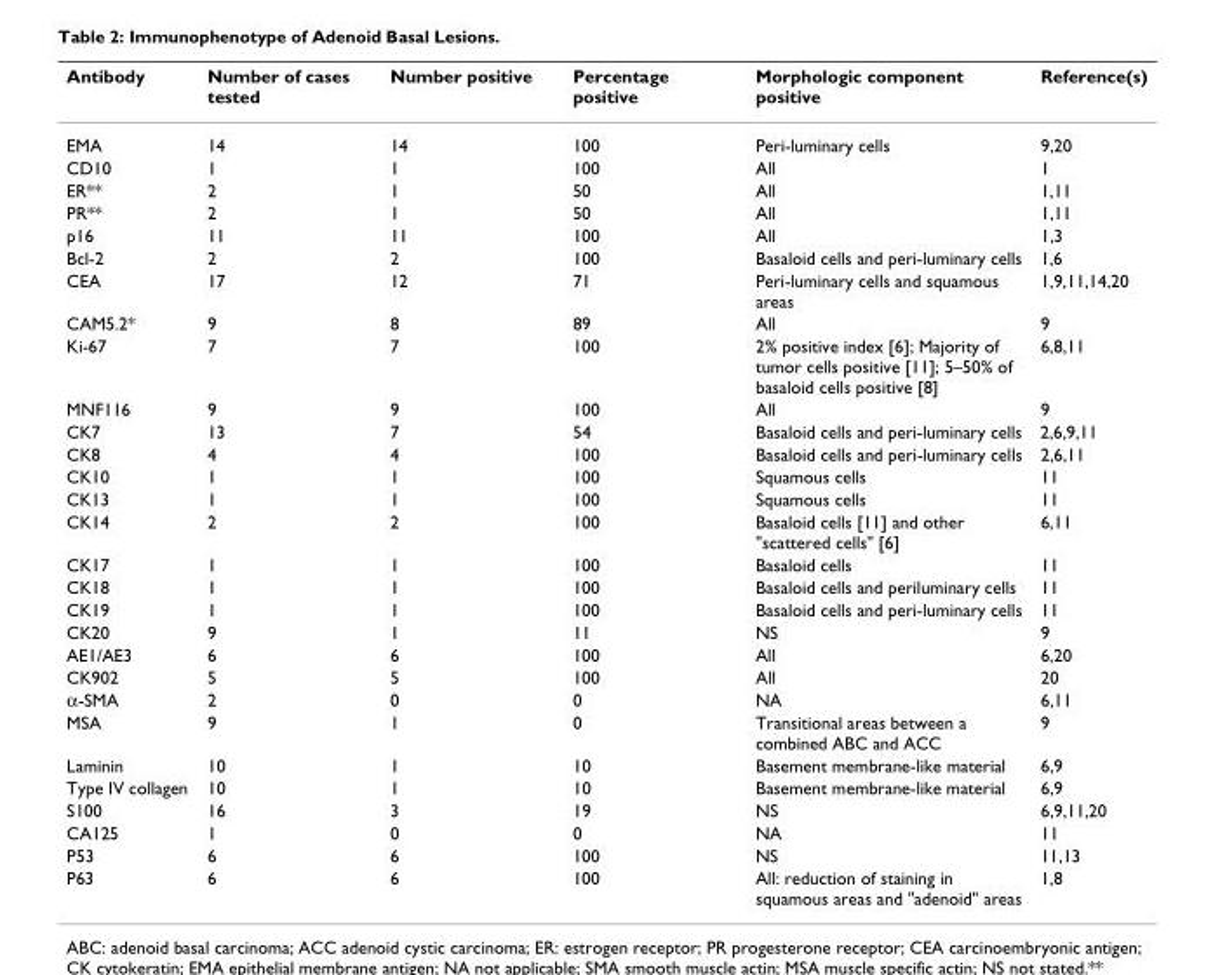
<table><thead><tr><td>Antibody</td><td>Number of cases tested</td><td>Number positive</td><td>Percentage positive</td><td>Morphologic component positive</td><td>Reference(s)</td></tr></thead><tbody><tr><td>EMA</td><td>14</td><td>14</td><td>100</td><td>Peri-luminary cells</td><td>9,20</td></tr><tr><td>CD10</td><td>1</td><td>1</td><td>100</td><td>All</td><td>1</td></tr><tr><td>ER**</td><td>2</td><td>1</td><td>50</td><td>All</td><td>1,11</td></tr><tr><td>PR**</td><td>2</td><td>1</td><td>50</td><td>All</td><td>1,11</td></tr><tr><td>p16</td><td>11</td><td>11</td><td>100</td><td>All</td><td>1,3</td></tr><tr><td>Bcl-2</td><td>2</td><td>2</td><td>100</td><td>Basaloid cells and peri-luminary cells</td><td>1,6</td></tr><tr><td>CEA</td><td>17</td><td>12</td><td>71</td><td>Peri-luminary cells and squamous areas</td><td>1,9,11,14,20</td></tr><tr><td>CAM5.2*</td><td>9</td><td>8</td><td>89</td><td>All</td><td>9</td></tr><tr><td>Ki-67</td><td>7</td><td>7</td><td>100</td><td>2% positive index [6]; Majority of tumor cells positive [11]; 5–50% of basaloid cells positive [8]</td><td>6,8,11</td></tr><tr><td>MNF116</td><td>9</td><td>9</td><td>100</td><td>All</td><td>9</td></tr><tr><td>CK7</td><td>13</td><td>7</td><td>54</td><td>Basaloid cells and peri-luminary cells</td><td>2,6,9,11</td></tr><tr><td>CK8</td><td>4</td><td>4</td><td>100</td><td>Basaloid cells and peri-luminary cells</td><td>2,6,11</td></tr><tr><td>CK10</td><td>1</td><td>1</td><td>100</td><td>Squamous cells</td><td>11</td></tr><tr><td>CK13</td><td>1</td><td>1</td><td>100</td><td>Squamous cells</td><td>11</td></tr><tr><td>CK14</td><td>2</td><td>2</td><td>100</td><td>Basaloid cells [11] and other &quot;scattered cells&quot; [6]</td><td>6,11</td></tr><tr><td>CK17</td><td>1</td><td>1</td><td>100</td><td>Basaloid cells</td><td>11</td></tr><tr><td>CK18</td><td>1</td><td>1</td><td>100</td><td>Basaloid cells and periluminary cells</td><td>11</td></tr><tr><td>CK19</td><td>1</td><td>1</td><td>100</td><td>Basaloid cells and peri-luminary cells</td><td>11</td></tr><tr><td>CK20</td><td>9</td><td>1</td><td>11</td><td>NS</td><td>9</td></tr><tr><td>AE1/AE3</td><td>6</td><td>6</td><td>100</td><td>All</td><td>6,20</td></tr><tr><td>CK902</td><td>5</td><td>5</td><td>100</td><td>All</td><td>20</td></tr><tr><td>α-SMA</td><td>2</td><td>0</td><td>0</td><td>NA</td><td>6,11</td></tr><tr><td>MSA</td><td>9</td><td>1</td><td>0</td><td>Transitional areas between a combined ABC and ACC</td><td>9</td></tr><tr><td>Laminin</td><td>10</td><td>1</td><td>10</td><td>Basement membrane-like material</td><td>6,9</td></tr><tr><td>Type IV collagen</td><td>10</td><td>1</td><td>10</td><td>Basement membrane-like material</td><td>6,9</td></tr><tr><td>S100</td><td>16</td><td>3</td><td>19</td><td>NS</td><td>6,9,11,20</td></tr><tr><td>CA125</td><td>1</td><td>0</td><td>0</td><td>NA</td><td>11</td></tr><tr><td>P53</td><td>6</td><td>6</td><td>100</td><td>NS</td><td>11,13</td></tr><tr><td>P63</td><td>6</td><td>6</td><td>100</td><td>All: reduction of staining in squamous areas and &quot;adenoid&quot; areas</td><td>1,8</td></tr></tbody></table>